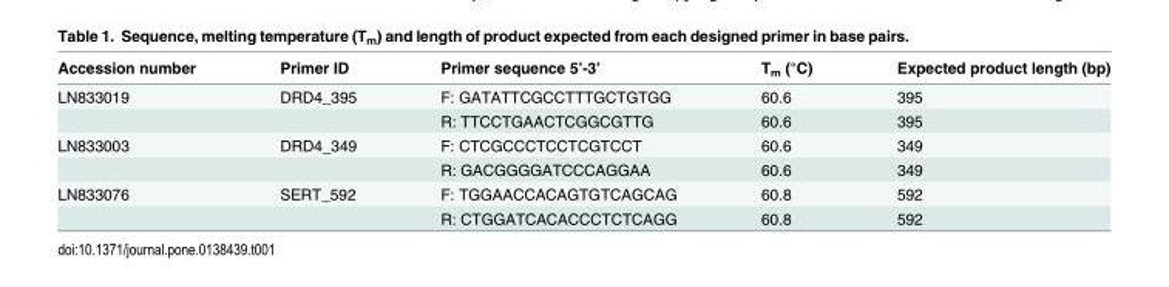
<table><thead><tr><td>Accession number</td><td>Primer ID</td><td>Primer sequence 5’-3’</td><td>T<sub>m</sub> (°C)</td><td>Expected product length (bp)</td></tr></thead><tbody><tr><td rowspan="2">LN833019</td><td>DRD4_395</td><td>F: GATATTCGCCTTTGCTGTGG</td><td>60.6</td><td>395</td></tr><tr><td></td><td>R: TTCCTGAACTCGGCGTTG</td><td>60.6</td><td>395</td></tr><tr><td rowspan="2">LN833003</td><td>DRD4_349</td><td>F: CTCGCCCTCCTCGTCCT</td><td>60.6</td><td>349</td></tr><tr><td></td><td>R: GACGGGGATCCCAGGAA</td><td>60.6</td><td>349</td></tr><tr><td rowspan="2">LN833076</td><td>SERT_592</td><td>F: TGGAACCACAGTGTCAGCAG</td><td>60.8</td><td>592</td></tr><tr><td></td><td>R: CTGGATCACACCCTCTCAGG</td><td>60.8</td><td>592</td></tr></tbody></table>